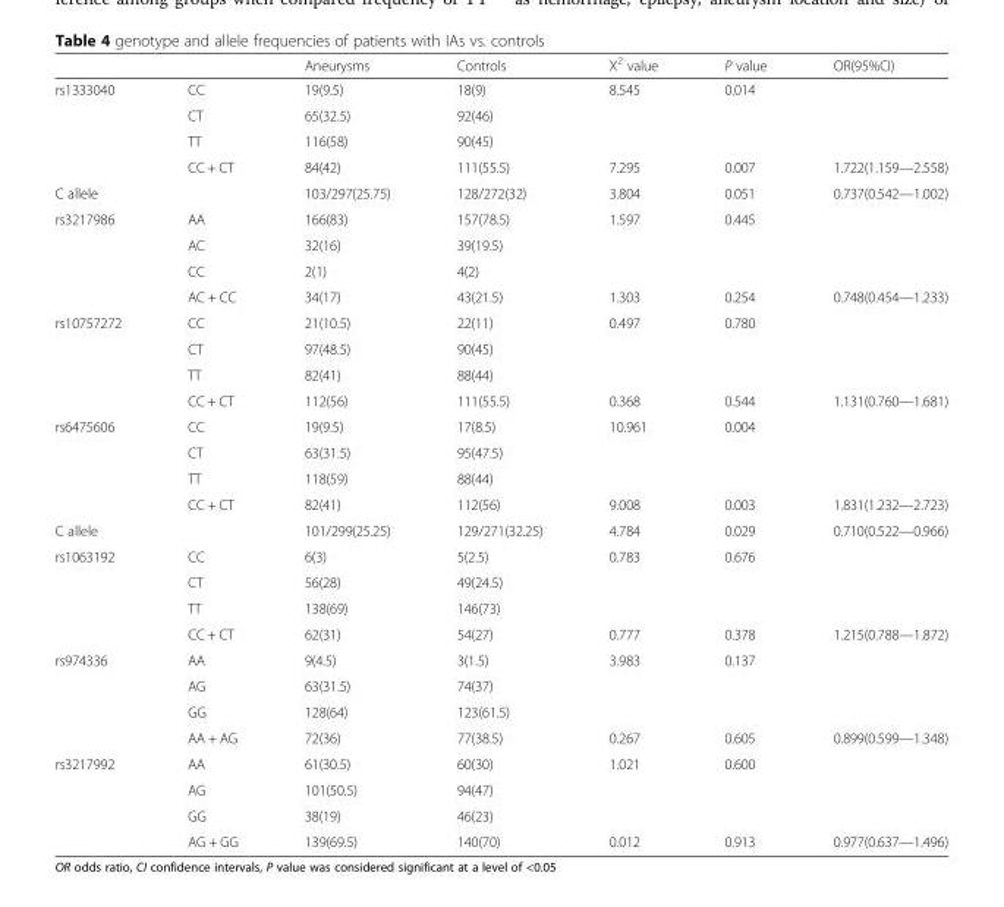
<table><thead><tr><td></td><td></td><td>Aneurysms</td><td>Controls</td><td>X<sup>2</sup> value</td><td>P value</td><td>OR(95%CI)</td></tr></thead><tbody><tr><td rowspan="4">rs1333040</td><td>CC</td><td>19(9.5)</td><td>18(9)</td><td>8.545</td><td>0.014</td><td></td></tr><tr><td>CT</td><td>65(32.5)</td><td>92(46)</td><td></td><td></td><td></td></tr><tr><td>TT</td><td>116(58)</td><td>90(45)</td><td></td><td></td><td></td></tr><tr><td>CC + CT</td><td>84(42)</td><td>111(55.5)</td><td>7.295</td><td>0.007</td><td>1.722(1.159—2.558)</td></tr><tr><td colspan="2">C allele</td><td>103/297(25.75)</td><td>128/272(32)</td><td>3.804</td><td>0.051</td><td>0.737(0.542—1.002)</td></tr><tr><td rowspan="4">rs3217986</td><td>AA</td><td>166(83)</td><td>157(78.5)</td><td>1.597</td><td>0.445</td><td></td></tr><tr><td>AC</td><td>32(16)</td><td>39(19.5)</td><td></td><td></td><td></td></tr><tr><td>CC</td><td>2(1)</td><td>4(2)</td><td></td><td></td><td></td></tr><tr><td>AC + CC</td><td>34(17)</td><td>43(21.5)</td><td>1.303</td><td>0.254</td><td>0.748(0.454—1.233)</td></tr><tr><td rowspan="4">rs10757272</td><td>CC</td><td>21(10.5)</td><td>22(11)</td><td>0.497</td><td>0.780</td><td></td></tr><tr><td>CT</td><td>97(48.5)</td><td>90(45)</td><td></td><td></td><td></td></tr><tr><td>TT</td><td>82(41)</td><td>88(44)</td><td></td><td></td><td></td></tr><tr><td>CC + CT</td><td>112(56)</td><td>111(55.5)</td><td>0.368</td><td>0.544</td><td>1.131(0.760—1.681)</td></tr><tr><td rowspan="4">rs6475606</td><td>CC</td><td>19(9.5)</td><td>17(8.5)</td><td>10.961</td><td>0.004</td><td></td></tr><tr><td>CT</td><td>63(31.5)</td><td>95(47.5)</td><td></td><td></td><td></td></tr><tr><td>TT</td><td>118(59)</td><td>88(44)</td><td></td><td></td><td></td></tr><tr><td>CC + CT</td><td>82(41)</td><td>112(56)</td><td>9.008</td><td>0.003</td><td>1.831(1.232—2.723)</td></tr><tr><td colspan="2">C allele</td><td>101/299(25.25)</td><td>129/271(32.25)</td><td>4.784</td><td>0.029</td><td>0.710(0.522—0.966)</td></tr><tr><td rowspan="4">rs1063192</td><td>CC</td><td>6(3)</td><td>5(2.5)</td><td>0.783</td><td>0.676</td><td></td></tr><tr><td>CT</td><td>56(28)</td><td>49(24.5)</td><td></td><td></td><td></td></tr><tr><td>TT</td><td>138(69)</td><td>146(73)</td><td></td><td></td><td></td></tr><tr><td>CC + CT</td><td>62(31)</td><td>54(27)</td><td>0.777</td><td>0.378</td><td>1.215(0.788—1.872)</td></tr><tr><td rowspan="4">rs974336</td><td>AA</td><td>9(4.5)</td><td>3(1.5)</td><td>3.983</td><td>0.137</td><td></td></tr><tr><td>AG</td><td>63(31.5)</td><td>74(37)</td><td></td><td></td><td></td></tr><tr><td>GG</td><td>128(64)</td><td>123(61.5)</td><td></td><td></td><td></td></tr><tr><td>AA + AG</td><td>72(36)</td><td>77(38.5)</td><td>0.267</td><td>0.605</td><td>0.899(0.599—1.348)</td></tr><tr><td rowspan="4">rs3217992</td><td>AA</td><td>61(30.5)</td><td>60(30)</td><td>1.021</td><td>0.600</td><td></td></tr><tr><td>AG</td><td>101(50.5)</td><td>94(47)</td><td></td><td></td><td></td></tr><tr><td>GG</td><td>38(19)</td><td>46(23)</td><td></td><td></td><td></td></tr><tr><td>AG + GG</td><td>139(69.5)</td><td>140(70)</td><td>0.012</td><td>0.913</td><td>0.977(0.637—1.496)</td></tr></tbody></table>